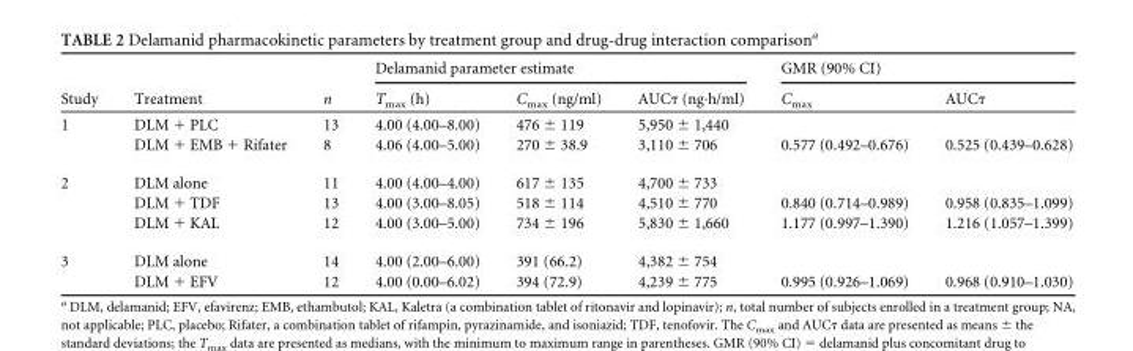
<table><thead><tr><td rowspan="2">Study</td><td rowspan="2">Treatment</td><td rowspan="2">n</td><td colspan="3">Delamanid parameter estimate</td><td colspan="2">GMR (90% CI)</td></tr><tr><td>T<sub>max</sub> (h)</td><td>C<sub>max</sub> (ng/ml)</td><td>AUCτ (ng·h/ml)</td><td>C<sub>max</sub></td><td>AUCτ</td></tr></thead><tbody><tr><td rowspan="2">1</td><td>DLM + PLC</td><td>13</td><td>4.00 (4.00–8.00)</td><td>476 ± 119</td><td>5,950 ± 1,440</td><td></td><td></td></tr><tr><td>DLM + EMB + Rifater</td><td>8</td><td>4.06 (4.00–5.00)</td><td>270 ± 38.9</td><td>3,110 ± 706</td><td>0.577 (0.492–0.676)</td><td>0.525 (0.439–0.628)</td></tr><tr><td rowspan="3">2</td><td>DLM alone</td><td>11</td><td>4.00 (4.00–4.00)</td><td>617 ± 135</td><td>4,700 ± 733</td><td></td><td></td></tr><tr><td>DLM + TDF</td><td>13</td><td>4.00 (3.00–8.05)</td><td>518 ± 114</td><td>4,510 ± 770</td><td>0.840 (0.714–0.989)</td><td>0.958 (0.835–1.099)</td></tr><tr><td>DLM + KAL</td><td>12</td><td>4.00 (3.00–5.00)</td><td>734 ± 196</td><td>5,830 ± 1,660</td><td>1.177 (0.997–1.390)</td><td>1.216 (1.057–1.399)</td></tr><tr><td rowspan="2">3</td><td>DLM alone</td><td>14</td><td>4.00 (2.00–6.00)</td><td>391 (66.2)</td><td>4,382 ± 754</td><td></td><td></td></tr><tr><td>DLM + EFV</td><td>12</td><td>4.00 (0.00–6.02)</td><td>394 (72.9)</td><td>4,239 ± 775</td><td>0.995 (0.926–1.069)</td><td>0.968 (0.910–1.030)</td></tr></tbody></table>